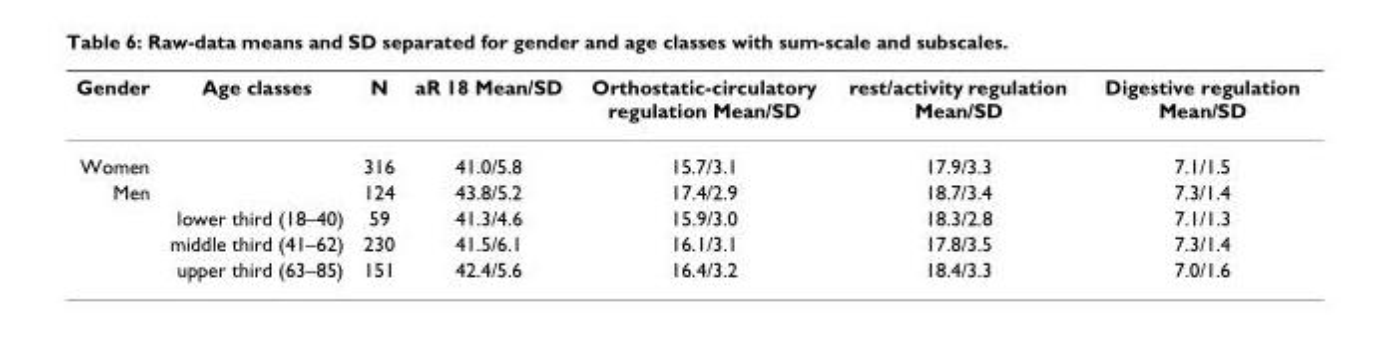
<table><thead><tr><td>Gender</td><td>Age classes</td><td>N</td><td>aR 18 Mean/SD</td><td>Orthostatic-circulatory regulation Mean/SD</td><td>rest/activity regulation Mean/SD</td><td>Digestive regulation Mean/SD</td></tr></thead><tbody><tr><td>Women</td><td></td><td>316</td><td>41.0/5.8</td><td>15.7/3.1</td><td>17.9/3.3</td><td>7.1/1.5</td></tr><tr><td rowspan="4">Men</td><td></td><td>124</td><td>43.8/5.2</td><td>17.4/2.9</td><td>18.7/3.4</td><td>7.3/1.4</td></tr><tr><td>lower third (18–40)</td><td>59</td><td>41.3/4.6</td><td>15.9/3.0</td><td>18.3/2.8</td><td>7.1/1.3</td></tr><tr><td>middle third (41–62)</td><td>230</td><td>41.5/6.1</td><td>16.1/3.1</td><td>17.8/3.5</td><td>7.3/1.4</td></tr><tr><td>upper third (63–85)</td><td>151</td><td>42.4/5.6</td><td>16.4/3.2</td><td>18.4/3.3</td><td>7.0/1.6</td></tr></tbody></table>